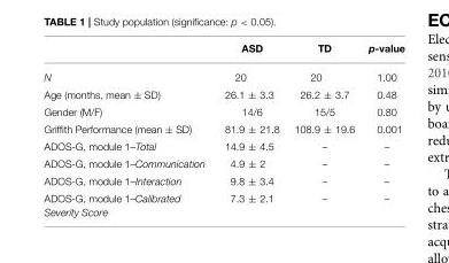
<table><thead><tr><td></td><td>ASD</td><td>TD</td><td>p-value</td></tr></thead><tbody><tr><td>N</td><td>20</td><td>20</td><td>1.00</td></tr><tr><td>Age (months, mean ± SD)</td><td>26.1 ± 3.3</td><td>26.2 ± 3.7</td><td>0.48</td></tr><tr><td>Gender (M/F)</td><td>14/6</td><td>15/5</td><td>0.80</td></tr><tr><td>Griffith Performance (mean ± SD)</td><td>81.9 ± 21.8</td><td>108.9 ± 19.6</td><td>0.001</td></tr><tr><td>ADOS-G, module 1–Total</td><td>14.9 ± 4.5</td><td>–</td><td>–</td></tr><tr><td>ADOS-G, module 1–Communication</td><td>4.9 ± 2</td><td>–</td><td>–</td></tr><tr><td>ADOS-G, module 1–Interaction</td><td>9.8 ± 3.4</td><td>–</td><td>–</td></tr><tr><td>ADOS-G, module 1–Calibrated Severity Score</td><td>7.3 ± 2.1</td><td>–</td><td>–</td></tr></tbody></table>